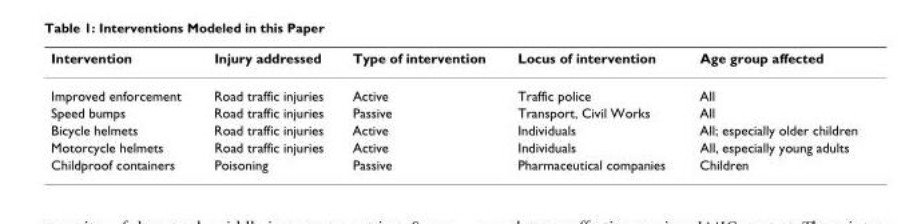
<table><thead><tr><td>Intervention</td><td>Injury addressed</td><td>Type of intervention</td><td>Locus of intervention</td><td>Age group affected</td></tr></thead><tbody><tr><td>Improved enforcement</td><td>Road traffic injuries</td><td>Active</td><td>Traffic police</td><td>All</td></tr><tr><td>Speed bumps</td><td>Road traffic injuries</td><td>Passive</td><td>Transport, Civil Works</td><td>All</td></tr><tr><td>Bicycle helmets</td><td>Road traffic injuries</td><td>Active</td><td>Individuals</td><td>All; especially older children</td></tr><tr><td>Motorcycle helmets</td><td>Road traffic injuries</td><td>Active</td><td>Individuals</td><td>All, especially young adults</td></tr><tr><td>Childproof containers</td><td>Poisoning</td><td>Passive</td><td>Pharmaceutical companies</td><td>Children</td></tr></tbody></table>